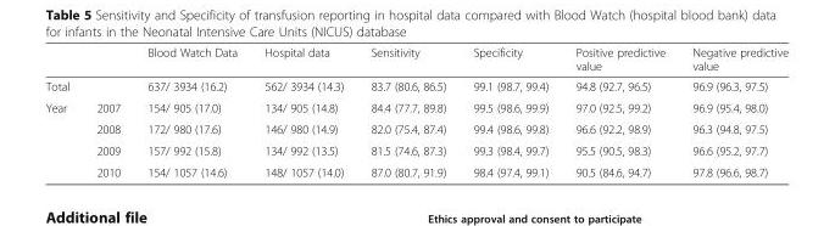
<table><thead><tr><td></td><td></td><td>Blood Watch Data</td><td>Hospital data</td><td>Sensitivity</td><td>Specificity</td><td>Positive predictive value</td><td>Negative predictive value</td></tr></thead><tbody><tr><td>Total</td><td></td><td>637/ 3934 (16.2)</td><td>562/ 3934 (14.3)</td><td>83.7 (80.6, 86.5)</td><td>99.1 (98.7, 99.4)</td><td>94.8 (92.7, 96.5)</td><td>96.9 (96.3, 97.5)</td></tr><tr><td rowspan="4">Year</td><td>2007</td><td>154/ 905 (17.0)</td><td>134/ 905 (14.8)</td><td>84.4 (77.7, 89.8)</td><td>99.5 (98.6, 99.9)</td><td>97.0 (92.5, 99.2)</td><td>96.9 (95.4, 98.0)</td></tr><tr><td>2008</td><td>172/ 980 (17.6)</td><td>146/ 980 (14.9)</td><td>82.0 (75.4, 87.4)</td><td>99.4 (98.6, 99.8)</td><td>96.6 (92.2, 98.9)</td><td>96.3 (94.8, 97.5)</td></tr><tr><td>2009</td><td>157/ 992 (15.8)</td><td>134/ 992 (13.5)</td><td>81.5 (74.6, 87.3)</td><td>99.3 (98.4, 99.7)</td><td>95.5 (90.5, 98.3)</td><td>96.6 (95.2, 97.7)</td></tr><tr><td>2010</td><td>154/ 1057 (14.6)</td><td>148/ 1057 (14.0)</td><td>87.0 (80.7, 91.9)</td><td>98.4 (97.4, 99.1)</td><td>90.5 (84.6, 94.7)</td><td>97.8 (96.6, 98.7)</td></tr></tbody></table>